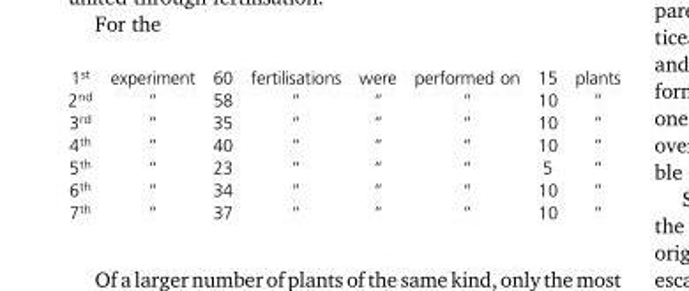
<table><tbody><tr><td>1<sup>st</sup></td><td>experiment</td><td>60</td><td>fertilisations</td><td>were</td><td>performed on</td><td>15</td><td>plants</td></tr><tr><td>2<sup>nd</sup></td><td>“</td><td>58</td><td>“</td><td>“</td><td>“</td><td>10</td><td>“</td></tr><tr><td>3<sup>rd</sup></td><td>“</td><td>35</td><td>“</td><td>“</td><td>“</td><td>10</td><td>“</td></tr><tr><td>4<sup>th</sup></td><td>“</td><td>40</td><td>“</td><td>“</td><td>“</td><td>10</td><td>“</td></tr><tr><td>5<sup>th</sup></td><td>“</td><td>23</td><td>“</td><td>“</td><td>“</td><td>5</td><td>“</td></tr><tr><td>6<sup>th</sup></td><td>“</td><td>34</td><td>“</td><td>“</td><td>“</td><td>10</td><td>“</td></tr><tr><td>7<sup>th</sup></td><td>“</td><td>37</td><td>“</td><td>“</td><td>“</td><td>10</td><td>“</td></tr></tbody></table>